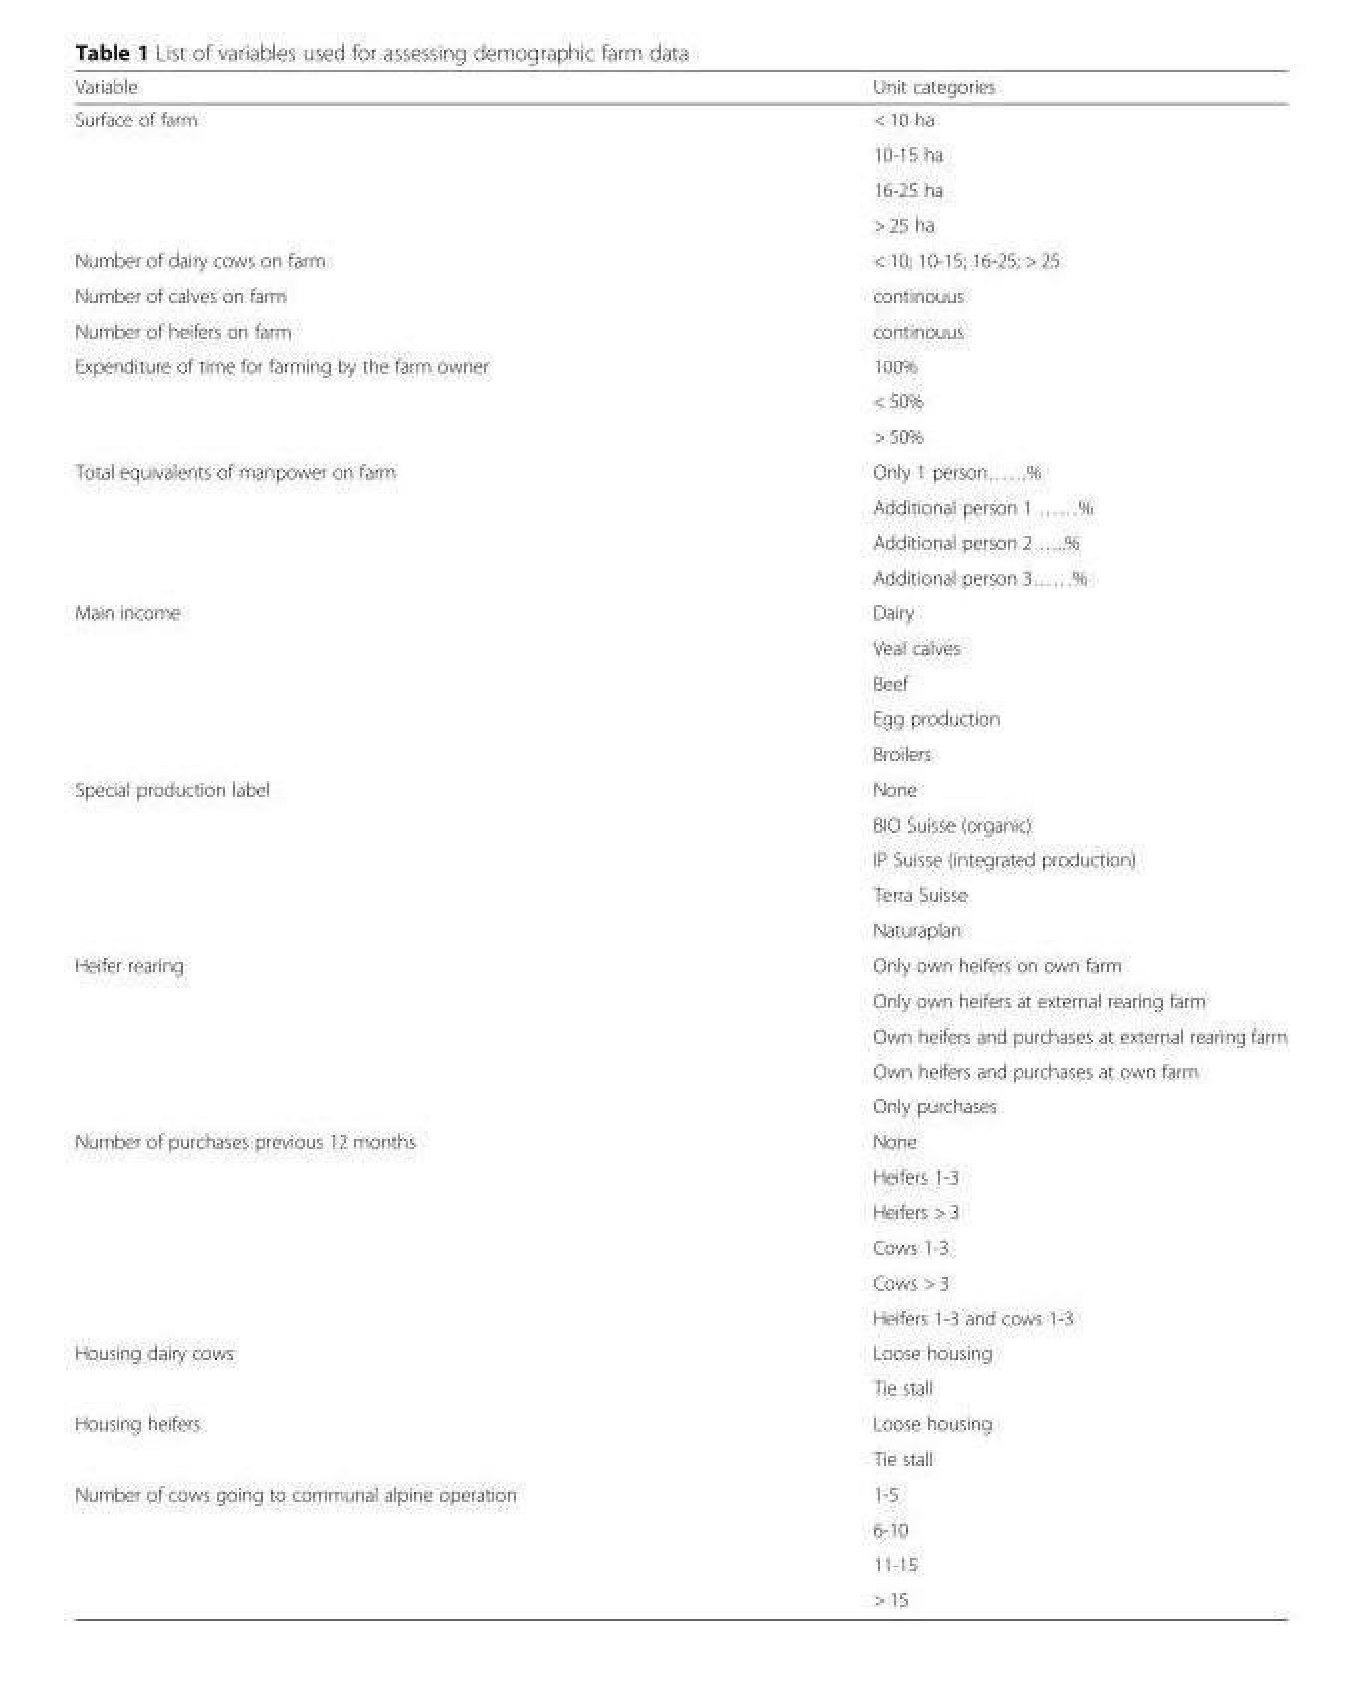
<table><thead><tr><td>Variable</td><td>Unit categories</td></tr></thead><tbody><tr><td rowspan="4">Surface of farm</td><td>&lt; 10 ha</td></tr><tr><td>10-15 ha</td></tr><tr><td>16-25 ha</td></tr><tr><td>&gt; 25 ha</td></tr><tr><td>Number of dairy cows on farm</td><td>&lt; 10; 10-15; 16-25; &gt; 25</td></tr><tr><td>Number of calves on farm</td><td>continouus</td></tr><tr><td>Number of heifers on farm</td><td>continouus</td></tr><tr><td rowspan="3">Expenditure of time for farming by the farm owner</td><td>100%</td></tr><tr><td>&lt; 50%</td></tr><tr><td>&gt; 50%</td></tr><tr><td rowspan="4">Total equivalents of manpower on farm</td><td>Only 1 person……%</td></tr><tr><td>Additional person 1 ……%</td></tr><tr><td>Additional person 2 …..%</td></tr><tr><td>Additional person 3……%</td></tr><tr><td rowspan="5">Main income</td><td>Dairy</td></tr><tr><td>Veal calves</td></tr><tr><td>Beef</td></tr><tr><td>Egg production</td></tr><tr><td>Broilers</td></tr><tr><td rowspan="5">Special production label</td><td>None</td></tr><tr><td>BIO Suisse (organic)</td></tr><tr><td>IP Suisse (integrated production)</td></tr><tr><td>Terra Suisse</td></tr><tr><td>Naturaplan</td></tr><tr><td rowspan="5">Heifer rearing</td><td>Only own heifers on own farm</td></tr><tr><td>Only own heifers at external rearing farm</td></tr><tr><td>Own heifers and purchases at external rearing farm</td></tr><tr><td>Own heifers and purchases at own farm</td></tr><tr><td>Only purchases</td></tr><tr><td rowspan="6">Number of purchases previous 12 months</td><td>None</td></tr><tr><td>Heifers 1-3</td></tr><tr><td>Heifers &gt; 3</td></tr><tr><td>Cows 1-3</td></tr><tr><td>Cows &gt; 3</td></tr><tr><td>Heifers 1-3 and cows 1-3</td></tr><tr><td rowspan="2">Housing dairy cows</td><td>Loose housing</td></tr><tr><td>Tie stall</td></tr><tr><td rowspan="2">Housing heifers</td><td>Loose housing</td></tr><tr><td>Tie stall</td></tr><tr><td rowspan="4">Number of cows going to communal alpine operation</td><td>1-5</td></tr><tr><td>6-10</td></tr><tr><td>11-15</td></tr><tr><td>&gt; 15</td></tr></tbody></table>